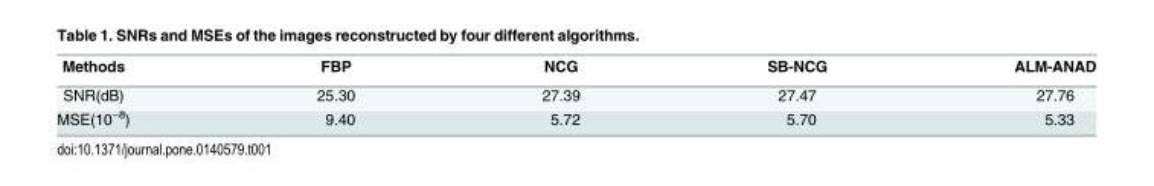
<table><thead><tr><td>Methods</td><td>FBP</td><td>NCG</td><td>SB-NCG</td><td>ALM-ANAD</td></tr></thead><tbody><tr><td>SNR(dB)</td><td>25.30</td><td>27.39</td><td>27.47</td><td>27.76</td></tr><tr><td>MSE(10<sup>−8</sup>)</td><td>9.40</td><td>5.72</td><td>5.70</td><td>5.33</td></tr></tbody></table>